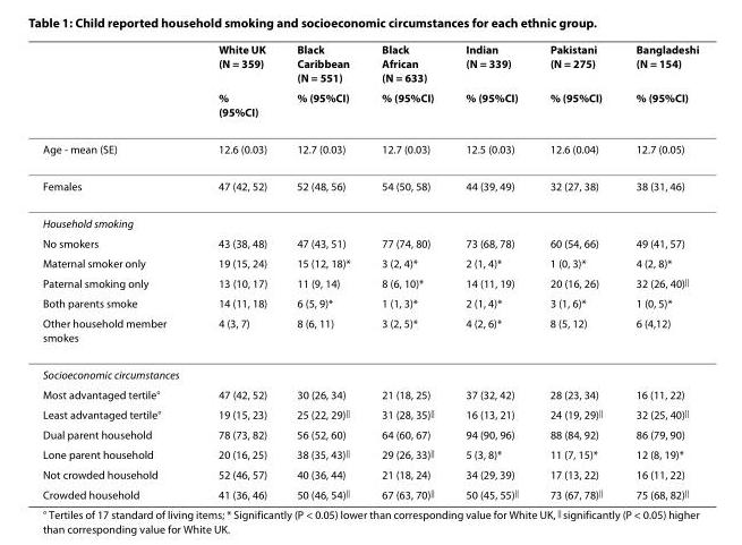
<table><thead><tr><td rowspan="2"></td><td rowspan="2">White UK (N = 359) % (95%CI)</td><td rowspan="2">Black Caribbean (N = 551) % (95%CI)</td><td rowspan="2">Black African (N = 633) % (95%CI)</td><td rowspan="2">Indian (N = 339) % (95%CI)</td><td rowspan="2">Pakistani (N = 275) % (95%CI)</td><td rowspan="2">Bangladeshi (N = 154) % (95%CI)</td></tr><tr></tr></thead><tbody><tr><td>Age - mean (SE)</td><td>12.6 (0.03)</td><td>12.7 (0.03)</td><td>12.7 (0.03)</td><td>12.5 (0.03)</td><td>12.6 (0.04)</td><td>12.7 (0.05)</td></tr><tr><td>Females</td><td>47 (42, 52)</td><td>52 (48, 56)</td><td>54 (50, 58)</td><td>44 (39, 49)</td><td>32 (27, 38)</td><td>38 (31, 46)</td></tr><tr><td colspan="7">Household smoking</td></tr><tr><td>No smokers</td><td>43 (38, 48)</td><td>47 (43, 51)</td><td>77 (74, 80)</td><td>73 (68, 78)</td><td>60 (54, 66)</td><td>49 (41, 57)</td></tr><tr><td>Maternal smoker only</td><td>19 (15, 24)</td><td>15 (12, 18)*</td><td>3 (2, 4)*</td><td>2 (1, 4)*</td><td>1 (0, 3)*</td><td>4 (2, 8)*</td></tr><tr><td>Paternal smoking only</td><td>13 (10, 17)</td><td>11 (9, 14)</td><td>8 (6, 10)*</td><td>14 (11, 19)</td><td>20 (16, 26)</td><td>32 (26, 40)<sup>||</sup></td></tr><tr><td>Both parents smoke</td><td>14 (11, 18)</td><td>6 (5, 9)*</td><td>1 (1, 3)*</td><td>2 (1, 4)*</td><td>3 (1, 6)*</td><td>1 (0, 5)*</td></tr><tr><td>Other household member smokes</td><td>4 (3, 7)</td><td>8 (6, 11)</td><td>3 (2, 5)*</td><td>4 (2, 6)*</td><td>8 (5, 12)</td><td>6 (4,12)</td></tr><tr><td colspan="7">Socioeconomic circumstances</td></tr><tr><td>Most advantaged tertile°</td><td>47 (42, 52)</td><td>30 (26, 34)</td><td>21 (18, 25)</td><td>37 (32, 42)</td><td>28 (23, 34)</td><td>16 (11, 22)</td></tr><tr><td>Least advantaged tertile°</td><td>19 (15, 23)</td><td>25 (22, 29)<sup>||</sup></td><td>31 (28, 35)<sup>||</sup></td><td>16 (13, 21)</td><td>24 (19, 29)<sup>||</sup></td><td>32 (25, 40)<sup>||</sup></td></tr><tr><td>Dual parent household</td><td>78 (73, 82)</td><td>56 (52, 60)</td><td>64 (60, 67)</td><td>94 (90, 96)</td><td>88 (84, 92)</td><td>86 (79, 90)</td></tr><tr><td>Lone parent household</td><td>20 (16, 25)</td><td>38 (35, 43)<sup>||</sup></td><td>29 (26, 33)<sup>||</sup></td><td>5 (3, 8)*</td><td>11 (7, 15)*</td><td>12 (8, 19)*</td></tr><tr><td>Not crowded household</td><td>52 (46, 57)</td><td>40 (36, 44)</td><td>21 (18, 24)</td><td>34 (29, 39)</td><td>17 (13, 22)</td><td>16 (11, 22)</td></tr><tr><td>Crowded household</td><td>41 (36, 46)</td><td>50 (46, 54)<sup>||</sup></td><td>67 (63, 70)<sup>||</sup></td><td>50 (45, 55)<sup>||</sup></td><td>73 (67, 78)<sup>||</sup></td><td>75 (68, 82)<sup>||</sup></td></tr></tbody></table>